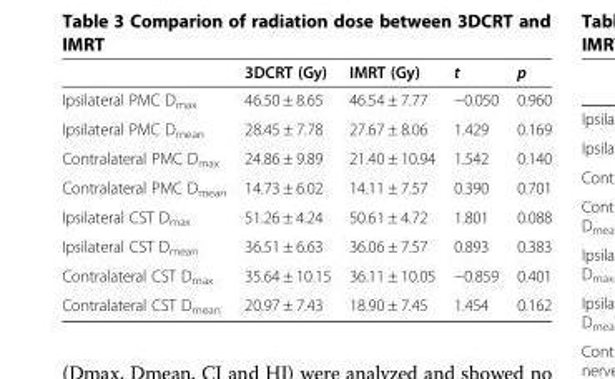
<table><thead><tr><td></td><td>3DCRT (Gy)</td><td>IMRT (Gy)</td><td>t</td><td>p</td></tr></thead><tbody><tr><td>Ipsilateral PMC D<sub>max</sub></td><td>46.50 ± 8.65</td><td>46.54 ± 7.77</td><td>−0.050</td><td>0.960</td></tr><tr><td>Ipsilateral PMC D<sub>mean</sub></td><td>28.45 ± 7.78</td><td>27.67 ± 8.06</td><td>1.429</td><td>0.169</td></tr><tr><td>Contralateral PMC D<sub>max</sub></td><td>24.86 ± 9.89</td><td>21.40 ± 10.94</td><td>1.542</td><td>0.140</td></tr><tr><td>Contralateral PMC D<sub>mean</sub></td><td>14.73 ± 6.02</td><td>14.11 ± 7.57</td><td>0.390</td><td>0.701</td></tr><tr><td>Ipsilateral CST D<sub>max</sub></td><td>51.26 ± 4.24</td><td>50.61 ± 4.72</td><td>1.801</td><td>0.088</td></tr><tr><td>Ipsilateral CST D<sub>mean</sub></td><td>36.51 ± 6.63</td><td>36.06 ± 7.57</td><td>0.893</td><td>0.383</td></tr><tr><td>Contralateral CST D<sub>max</sub></td><td>35.64 ± 10.15</td><td>36.11 ± 10.05</td><td>−0.859</td><td>0.401</td></tr><tr><td>Contralateral CST D<sub>mean</sub></td><td>20.97 ± 7.43</td><td>18.90 ± 7.45</td><td>1.454</td><td>0.162</td></tr></tbody></table>